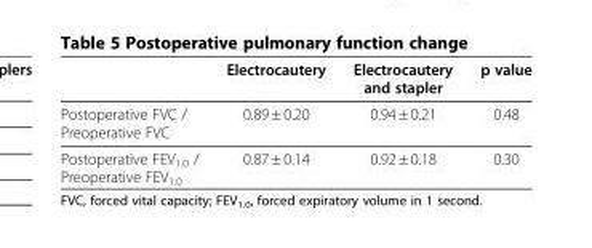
<table><thead><tr><td></td><td>Electrocautery</td><td>Electrocautery and stapler</td><td>p value</td></tr></thead><tbody><tr><td>Postoperative FVC / Preoperative FVC</td><td>0.89 ± 0.20</td><td>0.94 ± 0.21</td><td>0.48</td></tr><tr><td>Postoperative FEV<sub>1.0</sub> / Preoperative FEV<sub>1.0</sub></td><td>0.87 ± 0.14</td><td>0.92 ± 0.18</td><td>0.30</td></tr></tbody></table>